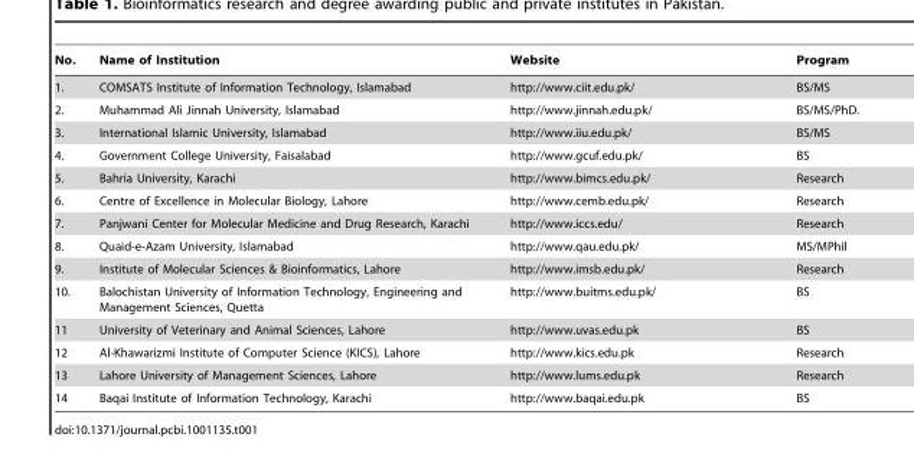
<table><thead><tr><td>No.</td><td>Name of Institution</td><td>Website</td><td>Program</td></tr></thead><tbody><tr><td>1.</td><td>COMSATS Institute of Information Technology, Islamabad</td><td>http://www.ciit.edu.pk/</td><td>BS/MS</td></tr><tr><td>2.</td><td>Muhammad Ali Jinnah University, Islamabad</td><td>http://www.jinnah.edu.pk/</td><td>BS/MS/PhD.</td></tr><tr><td>3.</td><td>International Islamic University, Islamabad</td><td>http://www.iiu.edu.pk/</td><td>BS/MS</td></tr><tr><td>4.</td><td>Government College University, Faisalabad</td><td>http://www.gcuf.edu.pk/</td><td>BS</td></tr><tr><td>5.</td><td>Bahria University, Karachi</td><td>http://www.bimcs.edu.pk/</td><td>Research</td></tr><tr><td>6.</td><td>Centre of Excellence in Molecular Biology, Lahore</td><td>http://www.cemb.edu.pk/</td><td>Research</td></tr><tr><td>7.</td><td>Panjwani Center for Molecular Medicine and Drug Research, Karachi</td><td>http://www.iccs.edu/</td><td>Research</td></tr><tr><td>8.</td><td>Quaid-e-Azam University, Islamabad</td><td>http://www.qau.edu.pk/</td><td>MS/MPhil</td></tr><tr><td>9.</td><td>Institute of Molecular Sciences &amp; Bioinformatics, Lahore</td><td>http://www.imsb.edu.pk/</td><td>Research</td></tr><tr><td>10.</td><td>Balochistan University of Information Technology, Engineering and Management Sciences, Quetta</td><td>http://www.buitms.edu.pk/</td><td>BS</td></tr><tr><td>11</td><td>University of Veterinary and Animal Sciences, Lahore</td><td>http://www.uvas.edu.pk</td><td>BS</td></tr><tr><td>12</td><td>Al-Khawarizmi Institute of Computer Science (KICS), Lahore</td><td>http://www.kics.edu.pk</td><td>Research</td></tr><tr><td>13</td><td>Lahore University of Management Sciences, Lahore</td><td>http://www.lums.edu.pk</td><td>Research</td></tr><tr><td>14</td><td>Baqai Institute of Information Technology, Karachi</td><td>http://www.baqai.edu.pk</td><td>BS</td></tr></tbody></table>